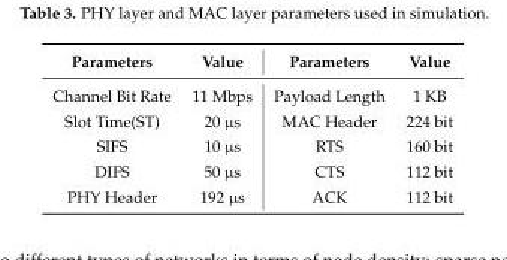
<table><thead><tr><td>Parameters</td><td>Value</td><td>Parameters</td><td>Value</td></tr></thead><tbody><tr><td>Channel Bit Rate</td><td>11 Mbps</td><td>Payload Length</td><td>1 KB</td></tr><tr><td>Slot Time(ST)</td><td>20 µs</td><td>MAC Header</td><td>224 bit</td></tr><tr><td>SIFS</td><td>10 µs</td><td>RTS</td><td>160 bit</td></tr><tr><td>DIFS</td><td>50 µs</td><td>CTS</td><td>112 bit</td></tr><tr><td>PHY Header</td><td>192 µs</td><td>ACK</td><td>112 bit</td></tr></tbody></table>